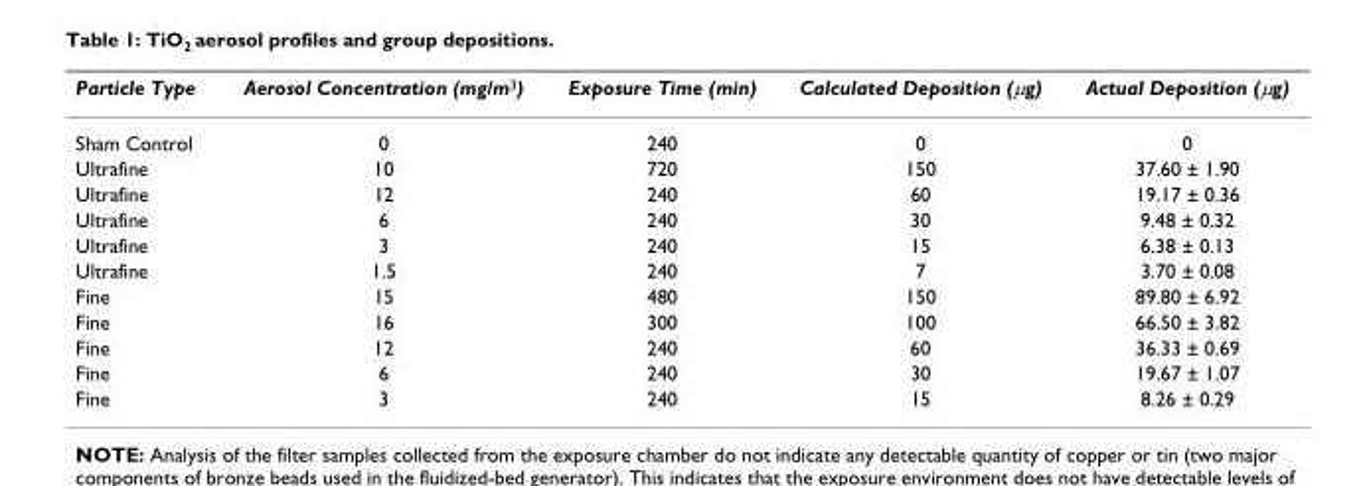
<table><thead><tr><td>Particle Type</td><td>Aerosol Concentration (mg/m<sup>3</sup>)</td><td>Exposure Time (min)</td><td>Calculated Deposition (µg)</td><td>Actual Deposition (µg)</td></tr></thead><tbody><tr><td>Sham Control</td><td>0</td><td>240</td><td>0</td><td>0</td></tr><tr><td>Ultrafine</td><td>10</td><td>720</td><td>150</td><td>37.60 ± 1.90</td></tr><tr><td>Ultrafine</td><td>12</td><td>240</td><td>60</td><td>19.17 ± 0.36</td></tr><tr><td>Ultrafine</td><td>6</td><td>240</td><td>30</td><td>9.48 ± 0.32</td></tr><tr><td>Ultrafine</td><td>3</td><td>240</td><td>15</td><td>6.38 ± 0.13</td></tr><tr><td>Ultrafine</td><td>1.5</td><td>240</td><td>7</td><td>3.70 ± 0.08</td></tr><tr><td>Fine</td><td>15</td><td>480</td><td>150</td><td>89.80 ± 6.92</td></tr><tr><td>Fine</td><td>16</td><td>300</td><td>100</td><td>66.50 ± 3.82</td></tr><tr><td>Fine</td><td>12</td><td>240</td><td>60</td><td>36.33 ± 0.69</td></tr><tr><td>Fine</td><td>6</td><td>240</td><td>30</td><td>19.67 ± 1.07</td></tr><tr><td>Fine</td><td>3</td><td>240</td><td>15</td><td>8.26 ± 0.29</td></tr></tbody></table>